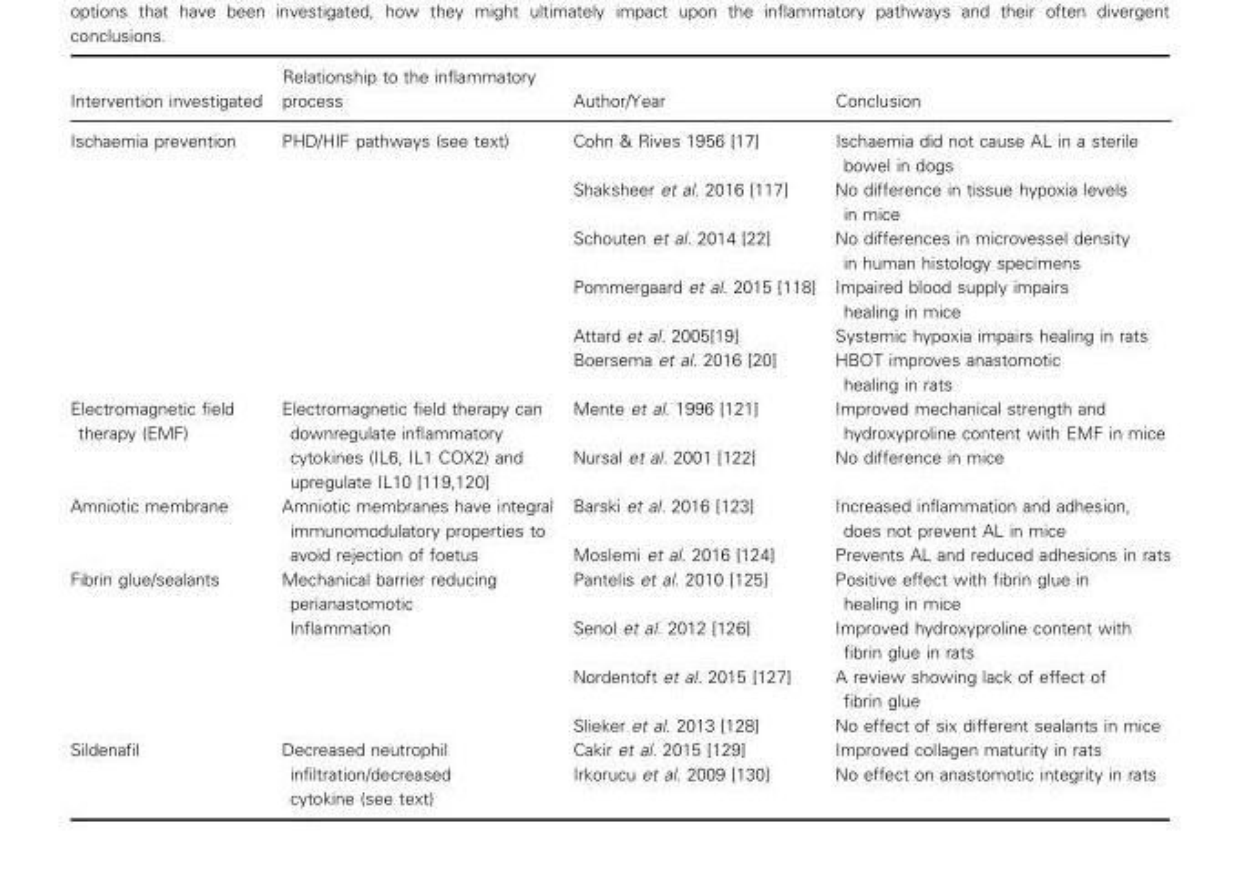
<table><thead><tr><td>Intervention investigated</td><td>Relationship to the inflammatory process</td><td>Author/Year</td><td>Conclusion</td></tr></thead><tbody><tr><td rowspan="6">Ischaemia prevention</td><td rowspan="6">PHD/HIF pathways (see text)</td><td>Cohn &amp; Rives 1956 [17]</td><td>Ischaemia did not cause AL in a sterile bowel in dogs</td></tr><tr><td>Shaksheer et al. 2016 [117]</td><td>No difference in tissue hypoxia levels in mice</td></tr><tr><td>Schouten et al. 2014 [22]</td><td>No differences in microvessel density in human histology specimens</td></tr><tr><td>Pommergaard et al. 2015 [118]</td><td>Impaired blood supply impairs healing in mice</td></tr><tr><td>Attard et al. 2005[19]</td><td>Systemic hypoxia impairs healing in rats</td></tr><tr><td>Boersema et al. 2016 [20]</td><td>HBOT improves anastomotic healing in rats</td></tr><tr><td rowspan="2">Electromagnetic field therapy (EMF)</td><td rowspan="2">Electromagnetic field therapy can downregulate inflammatory cytokines (IL6, IL1 COX2) and upregulate IL10 [119,120]</td><td>Mente et al. 1996 [121]</td><td>Improved mechanical strength and hydroxyproline content with EMF in mice</td></tr><tr><td>Nursal et al. 2001 [122]</td><td>No difference in mice</td></tr><tr><td rowspan="2">Amniotic membrane</td><td rowspan="2">Amniotic membranes have integral immunomodulatory properties to avoid rejection of foetus</td><td>Barski et al. 2016 [123]</td><td>Increased inflammation and adhesion, does not prevent AL in mice</td></tr><tr><td>Moslemi et al. 2016 [124]</td><td>Prevents AL and reduced adhesions in rats</td></tr><tr><td rowspan="4">Fibrin glue/sealants</td><td rowspan="4">Mechanical barrier reducing perianastomotic Inflammation</td><td>Pantelis et al. 2010 [125]</td><td>Positive effect with fibrin glue in healing in mice</td></tr><tr><td>Senol et al. 2012 [126]</td><td>Improved hydroxyproline content with fibrin glue in rats</td></tr><tr><td>Nordentoft et al. 2015 [127]</td><td>A review showing lack of effect of fibrin glue</td></tr><tr><td>Slieker et al. 2013 [128]</td><td>No effect of six different sealants in mice</td></tr><tr><td rowspan="2">Sildenafil</td><td rowspan="2">Decreased neutrophil infiltration/decreased cytokine (see text)</td><td>Cakir et al. 2015 [129]</td><td>Improved collagen maturity in rats</td></tr><tr><td>Irkorucu et al. 2009 [130]</td><td>No effect on anastomotic integrity in rats</td></tr></tbody></table>